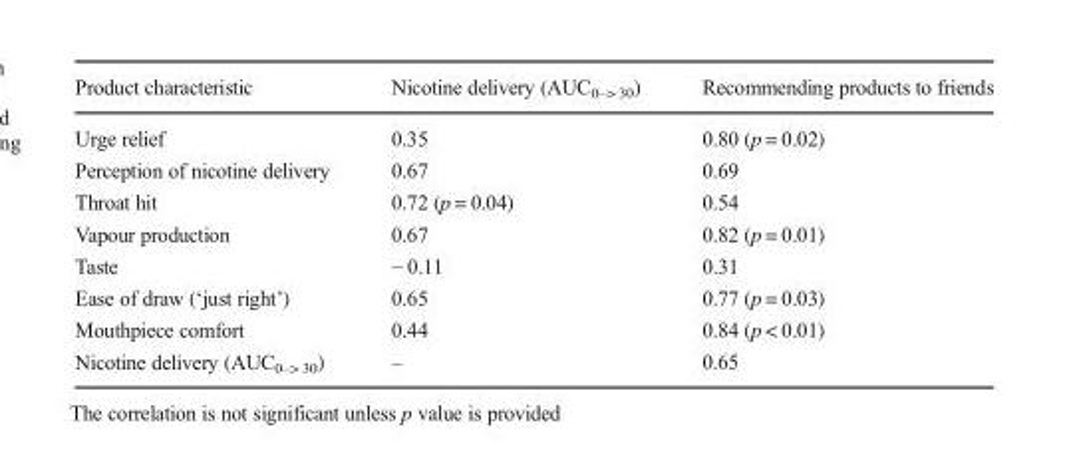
<table><thead><tr><td>Product characteristic</td><td>Nicotine delivery (AUC<sub>0–&gt; 30</sub>)</td><td>Recommending products to friends</td></tr></thead><tbody><tr><td>Urge relief</td><td>0.35</td><td>0.80 (p = 0.02)</td></tr><tr><td>Perception of nicotine delivery</td><td>0.67</td><td>0.69</td></tr><tr><td>Throat hit</td><td>0.72 (p = 0.04)</td><td>0.54</td></tr><tr><td>Vapour production</td><td>0.67</td><td>0.82 (p = 0.01)</td></tr><tr><td>Taste</td><td>− 0.11</td><td>0.31</td></tr><tr><td>Ease of draw (‘just right’)</td><td>0.65</td><td>0.77 (p = 0.03)</td></tr><tr><td>Mouthpiece comfort</td><td>0.44</td><td>0.84 (p &lt; 0.01)</td></tr><tr><td>Nicotine delivery (AUC<sub>0–&gt; 30</sub>)</td><td>–</td><td>0.65</td></tr></tbody></table>